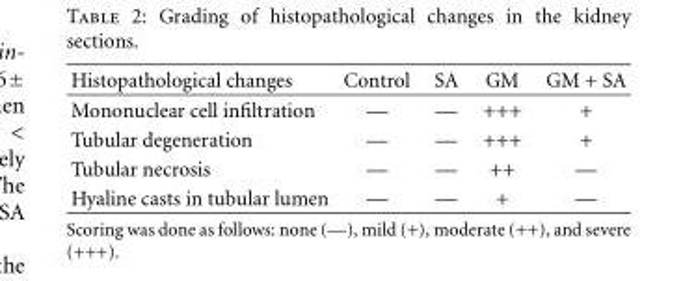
<table><thead><tr><td>Histopathological changes</td><td>Control</td><td>SA</td><td>GM</td><td>GM + SA</td></tr></thead><tbody><tr><td>Mononuclear cell infiltration</td><td>—</td><td>—</td><td>+++</td><td>+</td></tr><tr><td>Tubular degeneration</td><td>—</td><td>—</td><td>+++</td><td>+</td></tr><tr><td>Tubular necrosis</td><td>—</td><td>—</td><td>++</td><td>—</td></tr><tr><td>Hyaline casts in tubular lumen</td><td>—</td><td>—</td><td>+</td><td>—</td></tr></tbody></table>